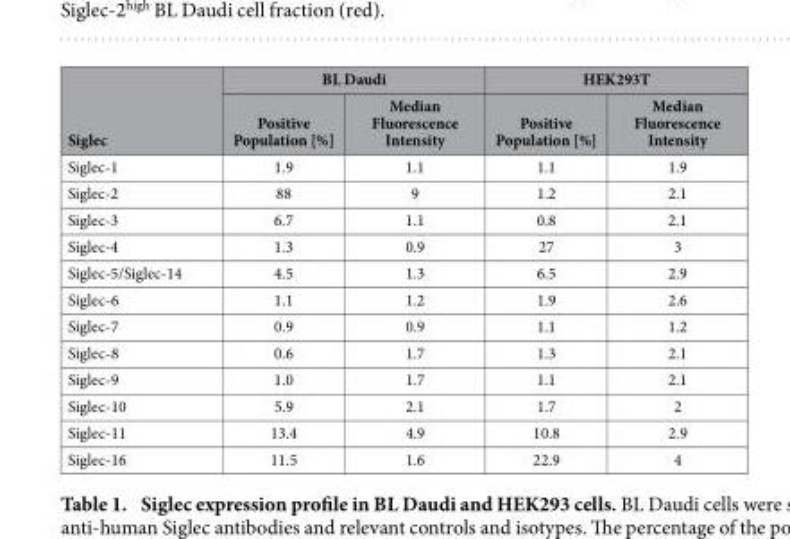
<table><thead><tr><td rowspan="2">Siglec</td><td colspan="2">BL Daudi</td><td colspan="2">HEK293T</td></tr><tr><td>Positive Population [%]</td><td>Median Fluorescence Intensity</td><td>Positive Population [%]</td><td>Median Fluorescence Intensity</td></tr></thead><tbody><tr><td>Siglec-1</td><td>1.9</td><td>1.1</td><td>1.1</td><td>1.9</td></tr><tr><td>Siglec-2</td><td>88</td><td>9</td><td>1.2</td><td>2.1</td></tr><tr><td>Siglec-3</td><td>6.7</td><td>1.1</td><td>0.8</td><td>2.1</td></tr><tr><td>Siglec-4</td><td>1.3</td><td>0.9</td><td>27</td><td>3</td></tr><tr><td>Siglec-5/Siglec-14</td><td>4.5</td><td>1.3</td><td>6.5</td><td>2.9</td></tr><tr><td>Siglec-6</td><td>1.1</td><td>1.2</td><td>1.9</td><td>2.6</td></tr><tr><td>Siglec-7</td><td>0.9</td><td>0.9</td><td>1.1</td><td>1.2</td></tr><tr><td>Siglec-8</td><td>0.6</td><td>1.7</td><td>1.3</td><td>2.1</td></tr><tr><td>Siglec-9</td><td>1.0</td><td>1.7</td><td>1.1</td><td>2.1</td></tr><tr><td>Siglec-10</td><td>5.9</td><td>2.1</td><td>1.7</td><td>2</td></tr><tr><td>Siglec-11</td><td>13.4</td><td>4.9</td><td>10.8</td><td>2.9</td></tr><tr><td>Siglec-16</td><td>11.5</td><td>1.6</td><td>22.9</td><td>4</td></tr></tbody></table>